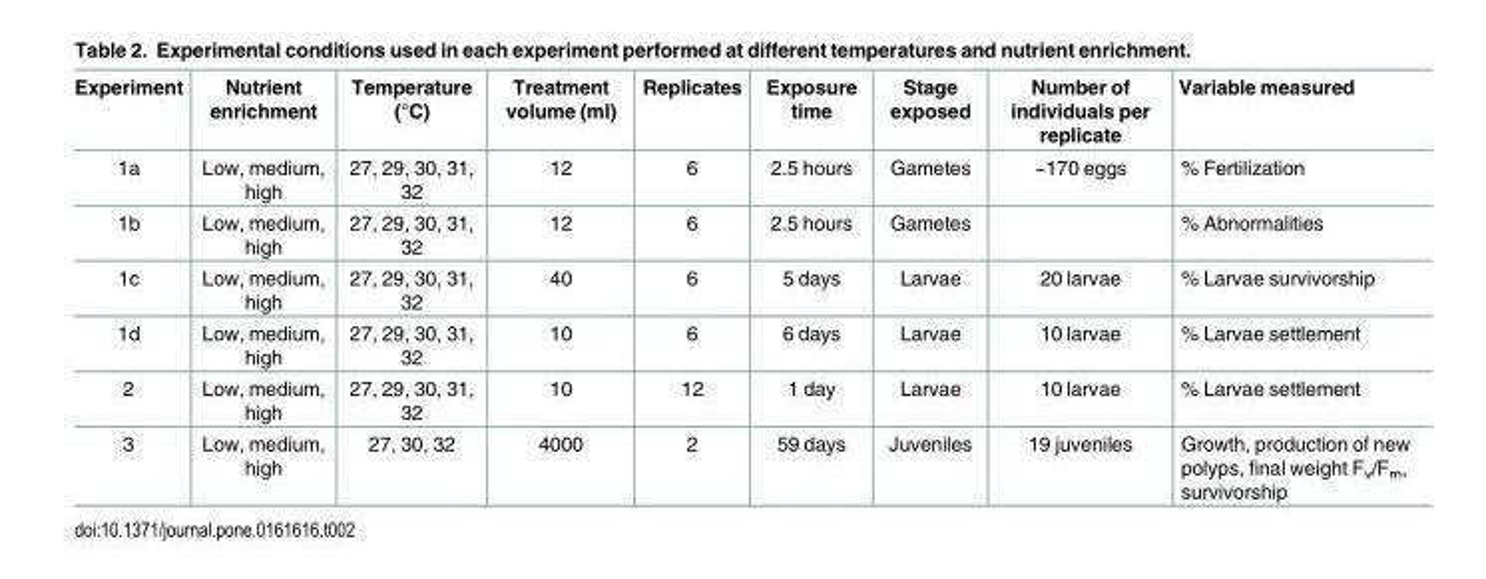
<table><thead><tr><td>Experiment</td><td>Nutrient enrichment</td><td>Temperature (°C)</td><td>Treatment volume (ml)</td><td>Replicates</td><td>Exposure time</td><td>Stage exposed</td><td>Number of individuals per replicate</td><td>Variable measured</td></tr></thead><tbody><tr><td>1a</td><td>Low, medium, high</td><td>27, 29, 30, 31, 32</td><td>12</td><td>6</td><td>2.5 hours</td><td>Gametes</td><td>~170 eggs</td><td>% Fertilization</td></tr><tr><td>1b</td><td>Low, medium, high</td><td>27, 29, 30, 31, 32</td><td>12</td><td>6</td><td>2.5 hours</td><td>Gametes</td><td></td><td>% Abnormalities</td></tr><tr><td>1c</td><td>Low, medium, high</td><td>27, 29, 30, 31, 32</td><td>40</td><td>6</td><td>5 days</td><td>Larvae</td><td>20 larvae</td><td>% Larvae survivorship</td></tr><tr><td>1d</td><td>Low, medium, high</td><td>27, 29, 30, 31, 32</td><td>10</td><td>6</td><td>6 days</td><td>Larvae</td><td>10 larvae</td><td>% Larvae settlement</td></tr><tr><td>2</td><td>Low, medium, high</td><td>27, 29, 30, 31, 32</td><td>10</td><td>12</td><td>1 day</td><td>Larvae</td><td>10 larvae</td><td>% Larvae settlement</td></tr><tr><td>3</td><td>Low, medium, high</td><td>27, 30, 32</td><td>4000</td><td>2</td><td>59 days</td><td>Juveniles</td><td>19 juveniles</td><td>Growth, production of new polyps, final weight F<sub>v</sub>/F<sub>m</sub>, survivorship</td></tr></tbody></table>